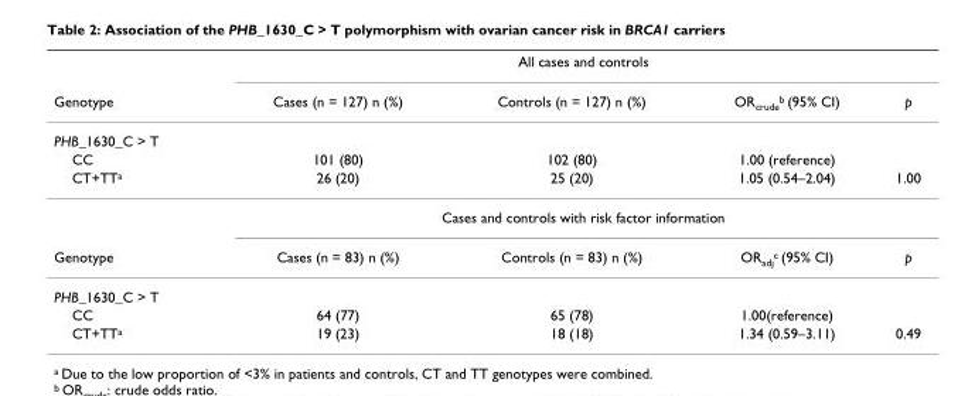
<table><thead><tr><td rowspan="2">Genotype</td><td colspan="4">All cases and controls</td></tr><tr><td>Cases (n = 127) n (%)</td><td>Controls (n = 127) n (%)</td><td>OR<sub>crude</sub><sup>b</sup> (95% CI)</td><td>p</td></tr></thead><tbody><tr><td colspan="5">PHB_1630_C &gt; T</td></tr><tr><td>CC</td><td>101 (80)</td><td>102 (80)</td><td>1.00 (reference)</td><td></td></tr><tr><td rowspan="2">CT+TT<sup>a</sup></td><td>26 (20)</td><td>25 (20)</td><td>1.05 (0.54–2.04)</td><td>1.00</td></tr><tr><td colspan="4">Cases and controls with risk factor information</td></tr><tr><td>Genotype</td><td>Cases (n = 83) n (%)</td><td>Controls (n = 83) n (%)</td><td>OR<sub>adj</sub><sup>c</sup> (95% CI)</td><td>p</td></tr><tr><td colspan="5">PHB_1630_C &gt; T</td></tr><tr><td>CC</td><td>64 (77)</td><td>65 (78)</td><td>1.00(reference)</td><td></td></tr><tr><td>CT+TT<sup>a</sup></td><td>19 (23)</td><td>18 (18)</td><td>1.34 (0.59–3.11)</td><td>0.49</td></tr></tbody></table>